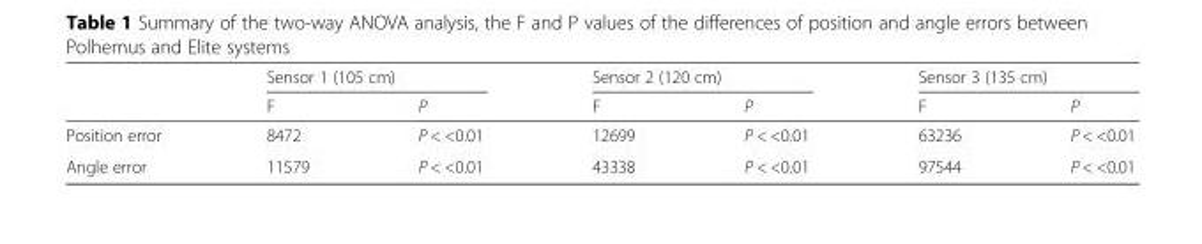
<table><thead><tr><td rowspan="2"></td><td colspan="2">Sensor 1 (105 cm)</td><td colspan="2">Sensor 2 (120 cm)</td><td colspan="2">Sensor 3 (135 cm)</td></tr><tr><td>F</td><td>P</td><td>F</td><td>P</td><td>F</td><td>P</td></tr></thead><tbody><tr><td>Position error</td><td>8472</td><td>P &lt; &lt;0.01</td><td>12699</td><td>P &lt; &lt;0.01</td><td>63236</td><td>P &lt; &lt;0.01</td></tr><tr><td>Angle error</td><td>11579</td><td>P &lt; &lt;0.01</td><td>43338</td><td>P &lt; &lt;0.01</td><td>97544</td><td>P &lt; &lt;0.01</td></tr></tbody></table>